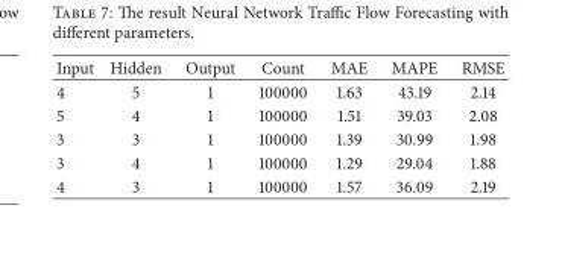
<table><thead><tr><td>Input</td><td>Hidden</td><td>Output</td><td>Count</td><td>MAE</td><td>MAPE</td><td>RMSE</td></tr></thead><tbody><tr><td>4</td><td>5</td><td>1</td><td>100000</td><td>1.63</td><td>43.19</td><td>2.14</td></tr><tr><td>5</td><td>4</td><td>1</td><td>100000</td><td>1.51</td><td>39.03</td><td>2.08</td></tr><tr><td>3</td><td>3</td><td>1</td><td>100000</td><td>1.39</td><td>30.99</td><td>1.98</td></tr><tr><td>3</td><td>4</td><td>1</td><td>100000</td><td>1.29</td><td>29.04</td><td>1.88</td></tr><tr><td>4</td><td>3</td><td>1</td><td>100000</td><td>1.57</td><td>36.09</td><td>2.19</td></tr></tbody></table>